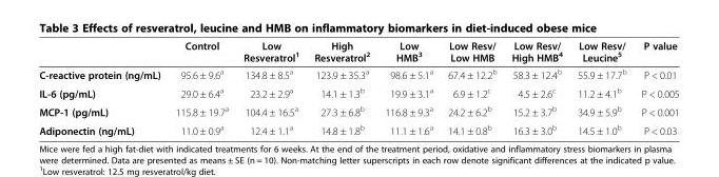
<table><thead><tr><td></td><td>Control</td><td>Low Resveratrol<sup>1</sup></td><td>High Resveratrol<sup>2</sup></td><td>Low HMB<sup>3</sup></td><td>Low Resv/ Low HMB</td><td>Low Resv/ High HMB<sup>4</sup></td><td>Low Resv/ Leucine<sup>5</sup></td><td>P value</td></tr></thead><tbody><tr><td>C-reactive protein (ng/mL)</td><td>95.6 ± 9.6<sup>a</sup></td><td>134.8 ± 8.5<sup>a</sup></td><td>123.9 ± 35.3<sup>a</sup></td><td>98.6 ± 5.1<sup>a</sup></td><td>67.4 ± 12.2<sup>b</sup></td><td>58.3 ± 12.4<sup>b</sup></td><td>55.9 ± 17.7<sup>b</sup></td><td>P &lt; 0.01</td></tr><tr><td>IL-6 (pg/mL)</td><td>29.0 ± 6.4<sup>a</sup></td><td>23.2 ± 2.9<sup>a</sup></td><td>14.1 ± 1.3<sup>b</sup></td><td>19.9 ± 3.1<sup>a</sup></td><td>6.9 ± 1.2<sup>c</sup></td><td>4.5 ± 2.6<sup>c</sup></td><td>11.2 ± 4.1<sup>b</sup></td><td>P &lt; 0.005</td></tr><tr><td>MCP-1 (pg/mL)</td><td>115.8 ± 19.7<sup>a</sup></td><td>104.4 ± 16.5<sup>a</sup></td><td>27.3 ± 6.8<sup>b</sup></td><td>116.8 ± 9.3<sup>a</sup></td><td>24.2 ± 6.2<sup>b</sup></td><td>15.2 ± 3.7<sup>b</sup></td><td>34.9 ± 5.9<sup>b</sup></td><td>P &lt; 0.001</td></tr><tr><td>Adiponectin (ng/mL)</td><td>11.0 ± 0.9<sup>a</sup></td><td>12.4 ± 1.1<sup>a</sup></td><td>14.8 ± 1.8<sup>b</sup></td><td>11.1 ± 1.6<sup>a</sup></td><td>14.1 ± 0.8<sup>b</sup></td><td>16.3 ± 3.0<sup>b</sup></td><td>14.5 ± 1.0<sup>b</sup></td><td>P &lt; 0.03</td></tr></tbody></table>